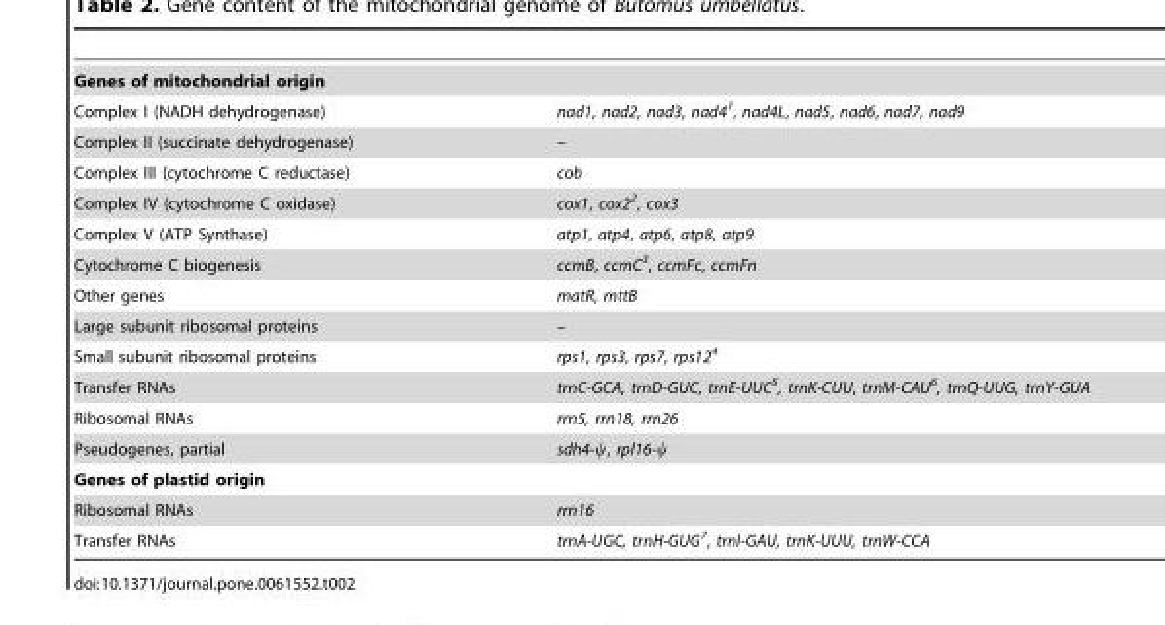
<table><tbody><tr><td colspan="2">Genes of mitochondrial origin</td></tr><tr><td>Complex I (NADH dehydrogenase)</td><td>nad1, nad2, nad3, nad4<sup>1</sup>, nad4L, nad5, nad6, nad7, nad9</td></tr><tr><td>Complex II (succinate dehydrogenase)</td><td>–</td></tr><tr><td>Complex III (cytochrome C reductase)</td><td>cob</td></tr><tr><td>Complex IV (cytochrome C oxidase)</td><td>cox1, cox2<sup>2</sup>, cox3</td></tr><tr><td>Complex V (ATP Synthase)</td><td>atp1, atp4, atp6, atp8, atp9</td></tr><tr><td>Cytochrome C biogenesis</td><td>ccmB, ccmC<sup>3</sup>, ccmFc, ccmFn</td></tr><tr><td>Other genes</td><td>matR, mttB</td></tr><tr><td>Large subunit ribosomal proteins</td><td>–</td></tr><tr><td>Small subunit ribosomal proteins</td><td>rps1, rps3, rps7, rps12<sup>4</sup></td></tr><tr><td>Transfer RNAs</td><td>trnC-GCA, trnD-GUC, trnE-UUC<sup>5</sup>, trnK-CUU, trnM-CAU<sup>6</sup>, trnQ-UUG, trnY-GUA</td></tr><tr><td>Ribosomal RNAs</td><td>rrn5, rrn18, rrn26</td></tr><tr><td>Pseudogenes, partial</td><td>sdh4-ψ, rpl16-ψ</td></tr><tr><td colspan="2">Genes of plastid origin</td></tr><tr><td>Ribosomal RNAs</td><td>rrn16</td></tr><tr><td>Transfer RNAs</td><td>trnA-UGC, trnH-GUG<sup>7</sup>, trnI-GAU, trnK-UUU, trnW-CCA</td></tr></tbody></table>